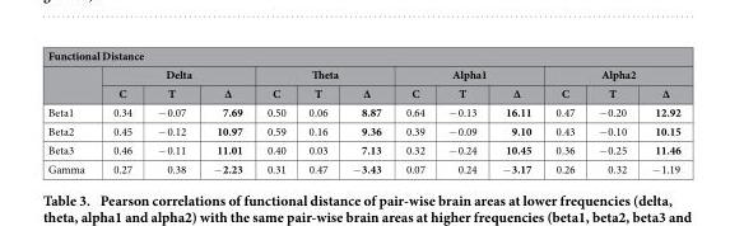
<table><thead><tr><td colspan="13">Functional Distance</td></tr><tr><td rowspan="2"></td><td colspan="3">Delta</td><td colspan="3">Theta</td><td colspan="3">Alpha1</td><td colspan="3">Alpha2</td></tr><tr><td>C</td><td>T</td><td>∆</td><td>C</td><td>T</td><td>∆</td><td>C</td><td>T</td><td>∆</td><td>C</td><td>T</td><td>∆</td></tr></thead><tbody><tr><td>Beta1</td><td>0.34</td><td>− 0.07</td><td>7.69</td><td>0.50</td><td>0.06</td><td>8.87</td><td>0.64</td><td>− 0.13</td><td>16.11</td><td>0.47</td><td>− 0.20</td><td>12.92</td></tr><tr><td>Beta2</td><td>0.45</td><td>− 0.12</td><td>10.97</td><td>0.59</td><td>0.16</td><td>9.36</td><td>0.39</td><td>− 0.09</td><td>9.10</td><td>0.43</td><td>− 0.10</td><td>10.15</td></tr><tr><td>Beta3</td><td>0.46</td><td>− 0.11</td><td>11.01</td><td>0.40</td><td>0.03</td><td>7.13</td><td>0.32</td><td>− 0.24</td><td>10.45</td><td>0.36</td><td>− 0.25</td><td>11.46</td></tr><tr><td>Gamma</td><td>0.27</td><td>0.38</td><td>− 2.23</td><td>0.31</td><td>0.47</td><td>− 3.43</td><td>0.07</td><td>0.24</td><td>− 3.17</td><td>0.26</td><td>0.32</td><td>− 1.19</td></tr></tbody></table>